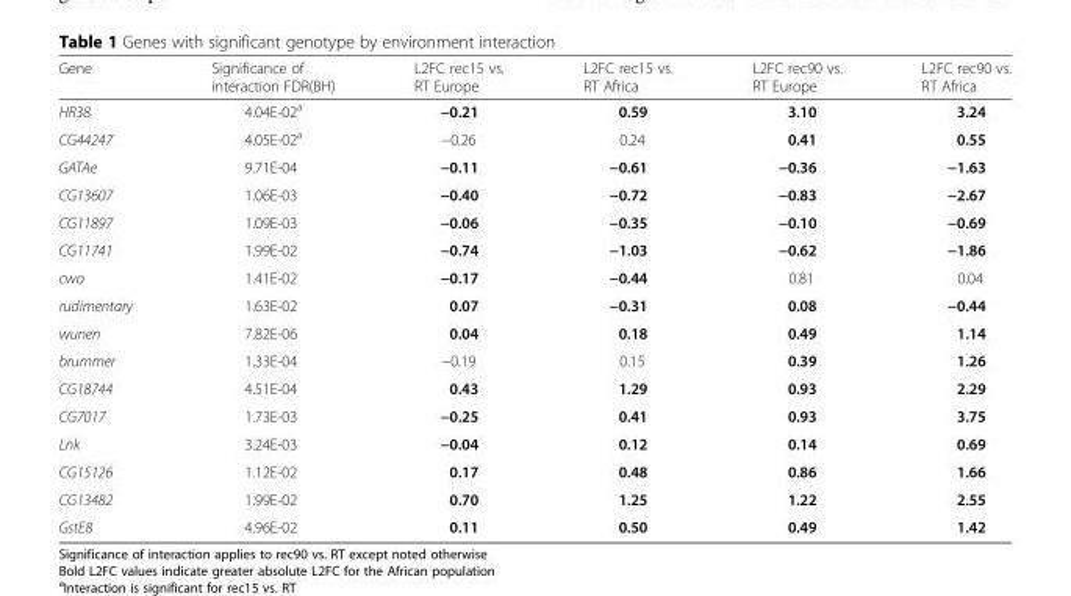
<table><thead><tr><td>Gene</td><td>Significance of interaction FDR(BH)</td><td>L2FC rec15 vs. RT Europe</td><td>L2FC rec15 vs. RT Africa</td><td>L2FC rec90 vs. RT Europe</td><td>L2FC rec90 vs. RT Africa</td></tr></thead><tbody><tr><td>HR38</td><td>4.04E-02<sup>a</sup></td><td>−0.21</td><td>0.59</td><td>3.10</td><td>3.24</td></tr><tr><td>CG44247</td><td>4.05E-02<sup>a</sup></td><td>−0.26</td><td>0.24</td><td>0.41</td><td>0.55</td></tr><tr><td>GATAe</td><td>9.71E-04</td><td>−0.11</td><td>−0.61</td><td>−0.36</td><td>−1.63</td></tr><tr><td>CG13607</td><td>1.06E-03</td><td>−0.40</td><td>−0.72</td><td>−0.83</td><td>−2.67</td></tr><tr><td>CG11897</td><td>1.09E-03</td><td>−0.06</td><td>−0.35</td><td>−0.10</td><td>−0.69</td></tr><tr><td>CG11741</td><td>1.99E-02</td><td>−0.74</td><td>−1.03</td><td>−0.62</td><td>−1.86</td></tr><tr><td>cwo</td><td>1.41E-02</td><td>−0.17</td><td>−0.44</td><td>0.81</td><td>0.04</td></tr><tr><td>rudimentary</td><td>1.63E-02</td><td>0.07</td><td>−0.31</td><td>0.08</td><td>−0.44</td></tr><tr><td>wunen</td><td>7.82E-06</td><td>0.04</td><td>0.18</td><td>0.49</td><td>1.14</td></tr><tr><td>brummer</td><td>1.33E-04</td><td>−0.19</td><td>0.15</td><td>0.39</td><td>1.26</td></tr><tr><td>CG18744</td><td>4.51E-04</td><td>0.43</td><td>1.29</td><td>0.93</td><td>2.29</td></tr><tr><td>CG7017</td><td>1.73E-03</td><td>−0.25</td><td>0.41</td><td>0.93</td><td>3.75</td></tr><tr><td>Lnk</td><td>3.24E-03</td><td>−0.04</td><td>0.12</td><td>0.14</td><td>0.69</td></tr><tr><td>CG15126</td><td>1.12E-02</td><td>0.17</td><td>0.48</td><td>0.86</td><td>1.66</td></tr><tr><td>CG13482</td><td>1.99E-02</td><td>0.70</td><td>1.25</td><td>1.22</td><td>2.55</td></tr><tr><td>GstE8</td><td>4.96E-02</td><td>0.11</td><td>0.50</td><td>0.49</td><td>1.42</td></tr></tbody></table>